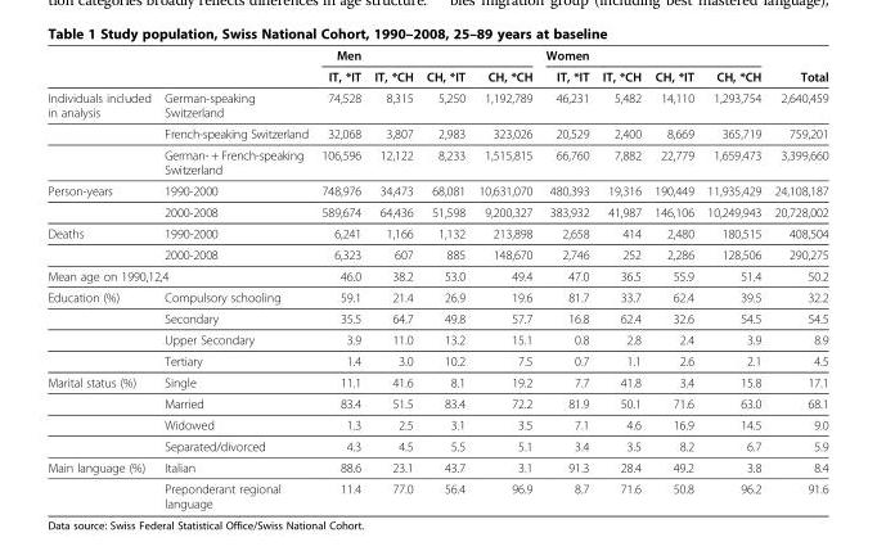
<table><thead><tr><td rowspan="2"></td><td rowspan="2"></td><td rowspan="2">Men IT, *IT</td><td rowspan="2">IT, *CH</td><td rowspan="2">CH, *IT</td><td rowspan="2">CH, *CH</td><td rowspan="2">Women IT, *IT</td><td rowspan="2">IT, *CH</td><td rowspan="2">CH, *IT</td><td rowspan="2">CH, *CH</td><td rowspan="2">Total</td></tr><tr></tr></thead><tbody><tr><td rowspan="3">Individuals included in analysis</td><td>German-speaking Switzerland</td><td>74,528</td><td>8,315</td><td>5,250</td><td>1,192,789</td><td>46,231</td><td>5,482</td><td>14,110</td><td>1,293,754</td><td>2,640,459</td></tr><tr><td>French-speaking Switzerland</td><td>32,068</td><td>3,807</td><td>2,983</td><td>323,026</td><td>20,529</td><td>2,400</td><td>8,669</td><td>365,719</td><td>759,201</td></tr><tr><td>German- + French-speaking Switzerland</td><td>106,596</td><td>12,122</td><td>8,233</td><td>1,515,815</td><td>66,760</td><td>7,882</td><td>22,779</td><td>1,659,473</td><td>3,399,660</td></tr><tr><td rowspan="2">Person-years</td><td>1990-2000</td><td>748,976</td><td>34,473</td><td>68,081</td><td>10,631,070</td><td>480,393</td><td>19,316</td><td>190,449</td><td>11,935,429</td><td>24,108,187</td></tr><tr><td>2000-2008</td><td>589,674</td><td>64,436</td><td>51,598</td><td>9,200,327</td><td>383,932</td><td>41,987</td><td>146,106</td><td>10,249,943</td><td>20,728,002</td></tr><tr><td rowspan="2">Deaths</td><td>1990-2000</td><td>6,241</td><td>1,166</td><td>1,132</td><td>213,898</td><td>2,658</td><td>414</td><td>2,480</td><td>180,515</td><td>408,504</td></tr><tr><td>2000-2008</td><td>6,323</td><td>607</td><td>885</td><td>148,670</td><td>2,746</td><td>252</td><td>2,286</td><td>128,506</td><td>290,275</td></tr><tr><td colspan="2">Mean age on 1990,12,4</td><td>46.0</td><td>38.2</td><td>53.0</td><td>49.4</td><td>47.0</td><td>36.5</td><td>55.9</td><td>51.4</td><td>50.2</td></tr><tr><td rowspan="4">Education (%)</td><td>Compulsory schooling</td><td>59.1</td><td>21.4</td><td>26.9</td><td>19.6</td><td>81.7</td><td>33.7</td><td>62.4</td><td>39.5</td><td>32.2</td></tr><tr><td>Secondary</td><td>35.5</td><td>64.7</td><td>49.8</td><td>57.7</td><td>16.8</td><td>62.4</td><td>32.6</td><td>54.5</td><td>54.5</td></tr><tr><td>Upper Secondary</td><td>3.9</td><td>11.0</td><td>13.2</td><td>15.1</td><td>0.8</td><td>2.8</td><td>2.4</td><td>3.9</td><td>8.9</td></tr><tr><td>Tertiary</td><td>1.4</td><td>3.0</td><td>10.2</td><td>7.5</td><td>0.7</td><td>1.1</td><td>2.6</td><td>2.1</td><td>4.5</td></tr><tr><td rowspan="4">Marital status (%)</td><td>Single</td><td>11.1</td><td>41.6</td><td>8.1</td><td>19.2</td><td>7.7</td><td>41.8</td><td>3.4</td><td>15.8</td><td>17.1</td></tr><tr><td>Married</td><td>83.4</td><td>51.5</td><td>83.4</td><td>72.2</td><td>81.9</td><td>50.1</td><td>71.6</td><td>63.0</td><td>68.1</td></tr><tr><td>Widowed</td><td>1.3</td><td>2.5</td><td>3.1</td><td>3.5</td><td>7.1</td><td>4.6</td><td>16.9</td><td>14.5</td><td>9.0</td></tr><tr><td>Separated/divorced</td><td>4.3</td><td>4.5</td><td>5.5</td><td>5.1</td><td>3.4</td><td>3.5</td><td>8.2</td><td>6.7</td><td>5.9</td></tr><tr><td rowspan="2">Main language (%)</td><td>Italian</td><td>88.6</td><td>23.1</td><td>43.7</td><td>3.1</td><td>91.3</td><td>28.4</td><td>49.2</td><td>3.8</td><td>8.4</td></tr><tr><td>Preponderant regional language</td><td>11.4</td><td>77.0</td><td>56.4</td><td>96.9</td><td>8.7</td><td>71.6</td><td>50.8</td><td>96.2</td><td>91.6</td></tr></tbody></table>